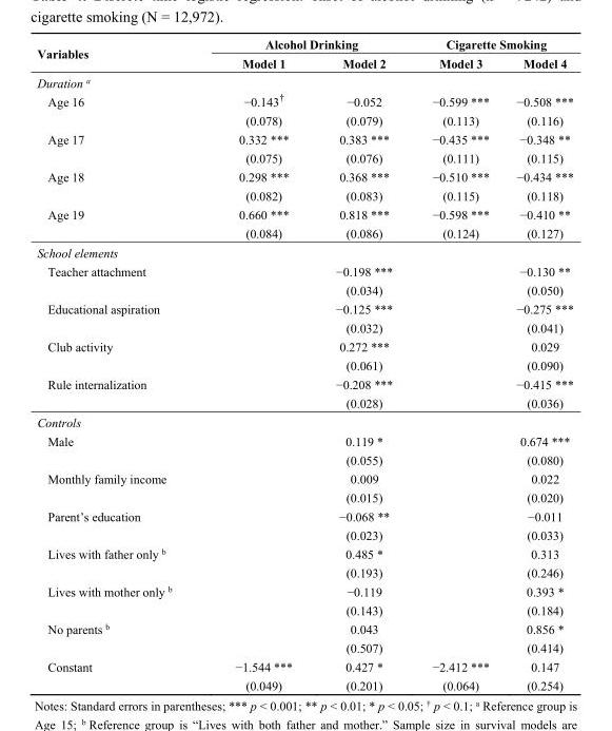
<table><thead><tr><td rowspan="2">Variables</td><td colspan="2">Alcohol Drinking</td><td colspan="2">Cigarette Smoking</td></tr><tr><td>Model 1</td><td>Model 2</td><td>Model 3</td><td>Model 4</td></tr></thead><tbody><tr><td colspan="5">Duration <sup>a</sup></td></tr><tr><td rowspan="2">Age 16</td><td>−0.143<sup>†</sup></td><td>−0.052</td><td>−0.599 ***</td><td>−0.508 ***</td></tr><tr><td>(0.078)</td><td>(0.079)</td><td>(0.113)</td><td>(0.116)</td></tr><tr><td rowspan="2">Age 17</td><td>0.332 ***</td><td>0.383 ***</td><td>−0.435 ***</td><td>−0.348 **</td></tr><tr><td>(0.075)</td><td>(0.076)</td><td>(0.111)</td><td>(0.115)</td></tr><tr><td rowspan="2">Age 18</td><td>0.298 ***</td><td>0.368 ***</td><td>−0.510 ***</td><td>−0.434 ***</td></tr><tr><td>(0.082)</td><td>(0.083)</td><td>(0.115)</td><td>(0.118)</td></tr><tr><td rowspan="2">Age 19</td><td>0.660 ***</td><td>0.818 ***</td><td>−0.598 ***</td><td>−0.410 **</td></tr><tr><td>(0.084)</td><td>(0.086)</td><td>(0.124)</td><td>(0.127)</td></tr><tr><td colspan="5">School elements</td></tr><tr><td rowspan="2">Teacher attachment</td><td></td><td>−0.198 ***</td><td></td><td>−0.130 **</td></tr><tr><td></td><td>(0.034)</td><td></td><td>(0.050)</td></tr><tr><td rowspan="2">Educational aspiration</td><td></td><td>−0.125 ***</td><td></td><td>−0.275 ***</td></tr><tr><td></td><td>(0.032)</td><td></td><td>(0.041)</td></tr><tr><td rowspan="2">Club activity</td><td></td><td>0.272 ***</td><td></td><td>0.029</td></tr><tr><td></td><td>(0.061)</td><td></td><td>(0.090)</td></tr><tr><td rowspan="2">Rule internalization</td><td></td><td>−0.208 ***</td><td></td><td>−0.415 ***</td></tr><tr><td></td><td>(0.028)</td><td></td><td>(0.036)</td></tr><tr><td colspan="5">Controls</td></tr><tr><td rowspan="2">Male</td><td></td><td>0.119 *</td><td></td><td>0.674 ***</td></tr><tr><td></td><td>(0.055)</td><td></td><td>(0.080)</td></tr><tr><td rowspan="2">Monthly family income</td><td></td><td>0.009</td><td></td><td>0.022</td></tr><tr><td></td><td>(0.015)</td><td></td><td>(0.020)</td></tr><tr><td rowspan="2">Parent’s education</td><td></td><td>−0.068 **</td><td></td><td>−0.011</td></tr><tr><td></td><td>(0.023)</td><td></td><td>(0.033)</td></tr><tr><td rowspan="2">Lives with father only <sup>b</sup></td><td></td><td>0.485 *</td><td></td><td>0.313</td></tr><tr><td></td><td>(0.193)</td><td></td><td>(0.246)</td></tr><tr><td rowspan="2">Lives with mother only <sup>b</sup></td><td></td><td>−0.119</td><td></td><td>0.393 *</td></tr><tr><td></td><td>(0.143)</td><td></td><td>(0.184)</td></tr><tr><td rowspan="2">No parents <sup>b</sup></td><td></td><td>0.043</td><td></td><td>0.856 *</td></tr><tr><td></td><td>(0.507)</td><td></td><td>(0.414)</td></tr><tr><td rowspan="2">Constant</td><td>−1.544 ***</td><td>0.427 *</td><td>−2.412 ***</td><td>0.147</td></tr><tr><td>(0.049)</td><td>(0.201)</td><td>(0.064)</td><td>(0.254)</td></tr></tbody></table>